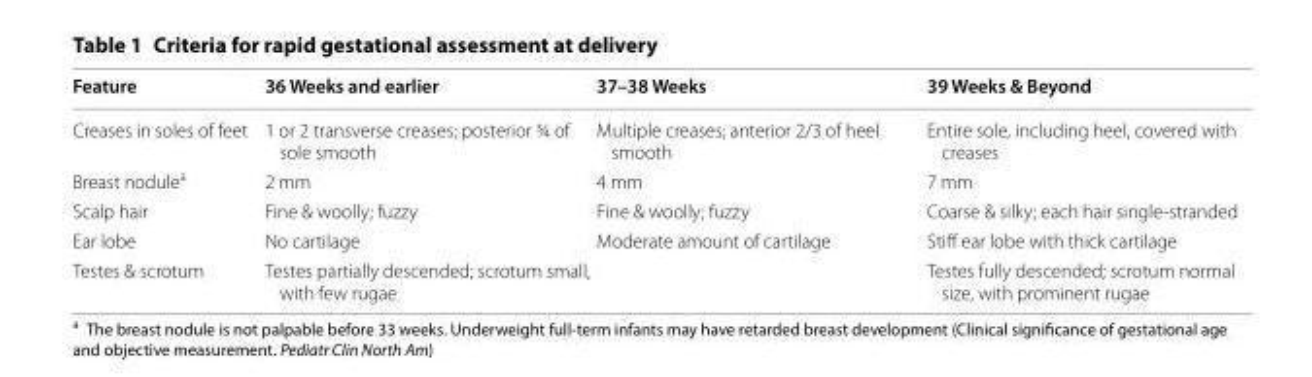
<table><thead><tr><td>Feature</td><td>36 Weeks and earlier</td><td>37–38 Weeks</td><td>39 Weeks &amp; Beyond</td></tr></thead><tbody><tr><td>Creases in soles of feet</td><td>1 or 2 transverse creases; posterior ¾ of sole smooth</td><td>Multiple creases; anterior 2/3 of heel smooth</td><td>Entire sole, including heel, covered with creases</td></tr><tr><td>Breast nodule<sup>a</sup></td><td>2 mm</td><td>4 mm</td><td>7 mm</td></tr><tr><td>Scalp hair</td><td>Fine &amp; woolly; fuzzy</td><td>Fine &amp; woolly; fuzzy</td><td>Coarse &amp; silky; each hair single-stranded</td></tr><tr><td>Ear lobe</td><td>No cartilage</td><td>Moderate amount of cartilage</td><td>Stiff ear lobe with thick cartilage</td></tr><tr><td>Testes &amp; scrotum</td><td>Testes partially descended; scrotum small, with few rugae</td><td></td><td>Testes fully descended; scrotum normal size, with prominent rugae</td></tr></tbody></table>